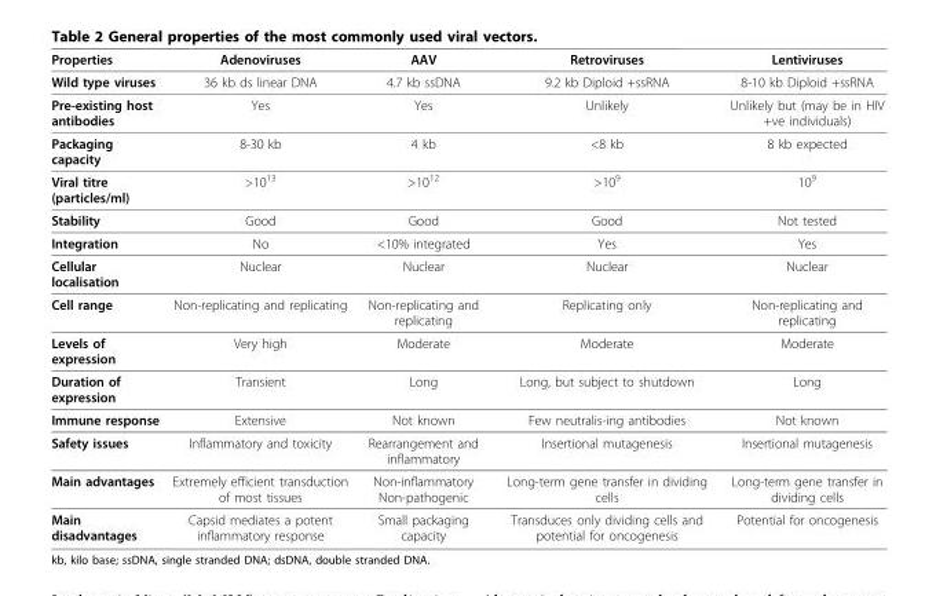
<table><thead><tr><td>Properties</td><td>Adenoviruses</td><td>AAV</td><td>Retroviruses</td><td>Lentiviruses</td></tr></thead><tbody><tr><td>Wild type viruses</td><td>36 kb ds linear DNA</td><td>4.7 kb ssDNA</td><td>9.2 kb Diploid +ssRNA</td><td>8-10 kb Diploid +ssRNA</td></tr><tr><td>Pre-existing host antibodies</td><td>Yes</td><td>Yes</td><td>Unlikely</td><td>Unlikely but (may be in HIV +ve individuals)</td></tr><tr><td>Packaging capacity</td><td>8-30 kb</td><td>4 kb</td><td>&lt;8 kb</td><td>8 kb expected</td></tr><tr><td>Viral titre (particles/ml)</td><td>&gt;10<sup>13</sup></td><td>&gt;10<sup>12</sup></td><td>&gt;10<sup>9</sup></td><td>10<sup>9</sup></td></tr><tr><td>Stability</td><td>Good</td><td>Good</td><td>Good</td><td>Not tested</td></tr><tr><td>Integration</td><td>No</td><td>&lt;10% integrated</td><td>Yes</td><td>Yes</td></tr><tr><td>Cellular localisation</td><td>Nuclear</td><td>Nuclear</td><td>Nuclear</td><td>Nuclear</td></tr><tr><td>Cell range</td><td>Non-replicating and replicating</td><td>Non-replicating and replicating</td><td>Replicating only</td><td>Non-replicating and replicating</td></tr><tr><td>Levels of expression</td><td>Very high</td><td>Moderate</td><td>Moderate</td><td>Moderate</td></tr><tr><td>Duration of expression</td><td>Transient</td><td>Long</td><td>Long, but subject to shutdown</td><td>Long</td></tr><tr><td>Immune response</td><td>Extensive</td><td>Not known</td><td>Few neutralis-ing antibodies</td><td>Not known</td></tr><tr><td>Safety issues</td><td>Inflammatory and toxicity</td><td>Rearrangement and inflammatory</td><td>Insertional mutagenesis</td><td>Insertional mutagenesis</td></tr><tr><td>Main advantages</td><td>Extremely efficient transduction of most tissues</td><td>Non-inflammatory Non-pathogenic</td><td>Long-term gene transfer in dividing cells</td><td>Long-term gene transfer in dividing cells</td></tr><tr><td>Main disadvantages</td><td>Capsid mediates a potent inflammatory response</td><td>Small packaging capacity</td><td>Transduces only dividing cells and potential for oncogenesis</td><td>Potential for oncogenesis</td></tr></tbody></table>